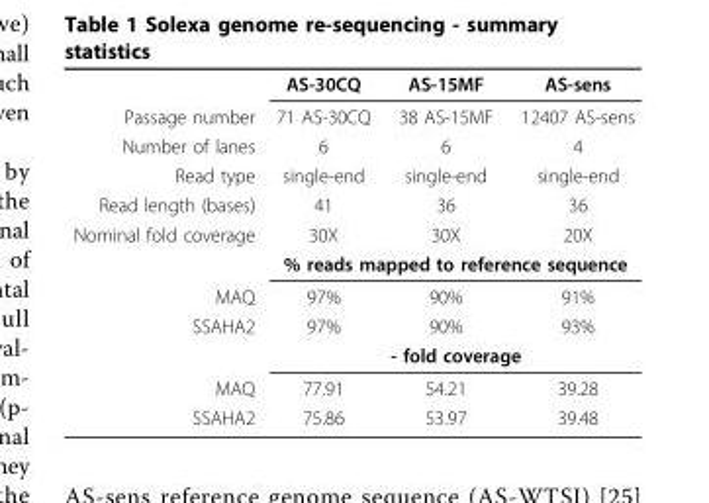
<table><thead><tr><td></td><td>AS-30CQ</td><td>AS-15MF</td><td>AS-sens</td></tr></thead><tbody><tr><td>Passage number</td><td>71 AS-30CQ</td><td>38 AS-15MF</td><td>12407 AS-sens</td></tr><tr><td>Number of lanes</td><td>6</td><td>6</td><td>4</td></tr><tr><td>Read type</td><td>single-end</td><td>single-end</td><td>single-end</td></tr><tr><td>Read length (bases)</td><td>41</td><td>36</td><td>36</td></tr><tr><td rowspan="2">Nominal fold coverage</td><td>30X</td><td>30X</td><td>20X</td></tr><tr><td colspan="3">% reads mapped to reference sequence</td></tr><tr><td>MAQ</td><td>97%</td><td>90%</td><td>91%</td></tr><tr><td rowspan="2">SSAHA2</td><td>97%</td><td>90%</td><td>93%</td></tr><tr><td colspan="3">- fold coverage</td></tr><tr><td>MAQ</td><td>77.91</td><td>54.21</td><td>39.28</td></tr><tr><td>SSAHA2</td><td>75.86</td><td>53.97</td><td>39.48</td></tr></tbody></table>